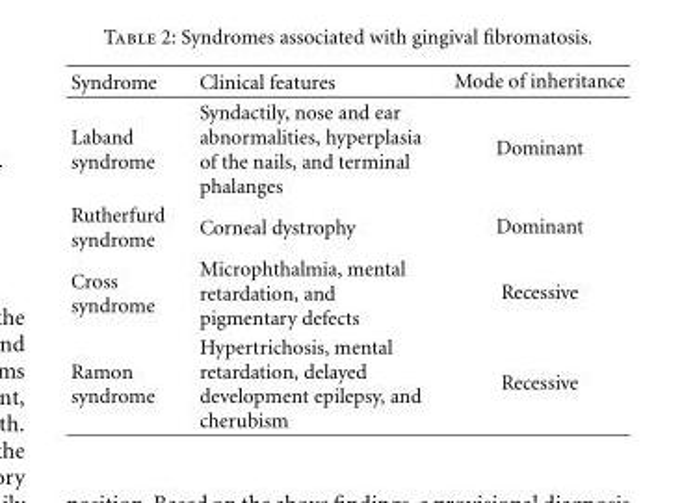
<table><thead><tr><td>Syndrome</td><td>Clinical features</td><td>Mode of inheritance</td></tr></thead><tbody><tr><td>Laband syndrome</td><td>Syndactily, nose and ear abnormalities, hyperplasia of the nails, and terminal phalanges</td><td>Dominant</td></tr><tr><td>Rutherfurd syndrome</td><td>Corneal dystrophy</td><td>Dominant</td></tr><tr><td>Cross syndrome</td><td>Microphthalmia, mental retardation, and pigmentary defects</td><td>Recessive</td></tr><tr><td>Ramon syndrome</td><td>Hypertrichosis, mental retardation, delayed development epilepsy, and cherubism</td><td>Recessive</td></tr></tbody></table>